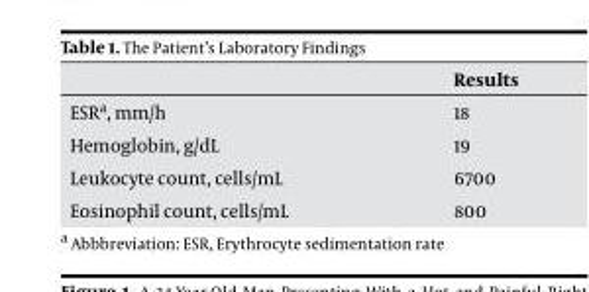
<table><thead><tr><td></td><td>results</td></tr></thead><tbody><tr><td>ESR<sup>a</sup>, mm/h</td><td>18</td></tr><tr><td>Hemoglobin, g/dL</td><td>19</td></tr><tr><td>Leukocyte count, cells/mL</td><td>6700</td></tr><tr><td>Eosinophil count, cells/mL</td><td>800</td></tr></tbody></table>